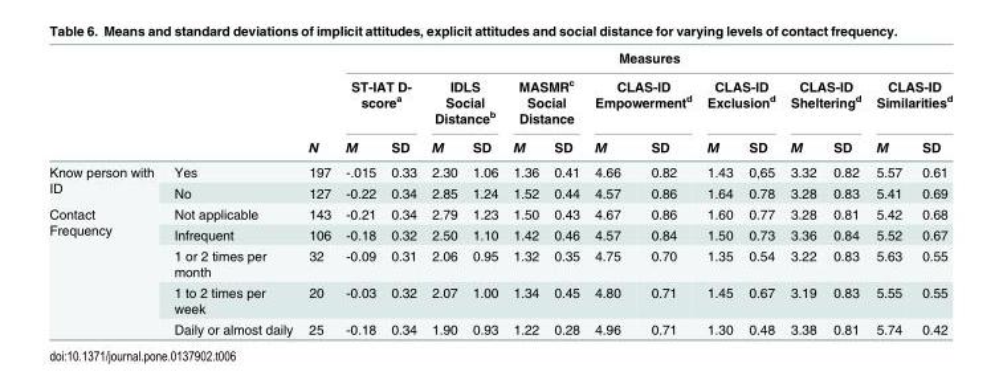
<table><thead><tr><td rowspan="3"></td><td rowspan="3"></td><td rowspan="3">N</td><td colspan="14">Measures</td></tr><tr><td colspan="2">ST-IAT D- score<sup>a</sup></td><td colspan="2">IDLS Social Distance<sup>b</sup></td><td colspan="2">MASMR<sup>c</sup> Social Distance</td><td colspan="2">CLAS-ID Empowerment<sup>d</sup></td><td colspan="2">CLAS-ID Exclusion<sup>d</sup></td><td colspan="2">CLAS-ID Sheltering<sup>d</sup></td><td colspan="2">CLAS-ID Similarities<sup>d</sup></td></tr><tr><td>M</td><td>SD</td><td>M</td><td>SD</td><td>M</td><td>SD</td><td>M</td><td>SD</td><td>M</td><td>SD</td><td>M</td><td>SD</td><td>M</td><td>SD</td></tr></thead><tbody><tr><td rowspan="2">Know person with ID</td><td>Yes</td><td>197</td><td>-.015</td><td>0.33</td><td>2.30</td><td>1.06</td><td>1.36</td><td>0.41</td><td>4.66</td><td>0.82</td><td>1.43</td><td>0,65</td><td>3.32</td><td>0.82</td><td>5.57</td><td>0.61</td></tr><tr><td>No</td><td>127</td><td>-0.22</td><td>0.34</td><td>2.85</td><td>1.24</td><td>1.52</td><td>0.44</td><td>4.57</td><td>0.86</td><td>1.64</td><td>0.78</td><td>3.28</td><td>0.83</td><td>5.41</td><td>0.69</td></tr><tr><td rowspan="5">Contact Frequency</td><td>Not applicable</td><td>143</td><td>-0.21</td><td>0.34</td><td>2.79</td><td>1.23</td><td>1.50</td><td>0.43</td><td>4.67</td><td>0.86</td><td>1.60</td><td>0.77</td><td>3.28</td><td>0.81</td><td>5.42</td><td>0.68</td></tr><tr><td>Infrequent</td><td>106</td><td>-0.18</td><td>0.32</td><td>2.50</td><td>1.10</td><td>1.42</td><td>0.46</td><td>4.57</td><td>0.84</td><td>1.50</td><td>0.73</td><td>3.36</td><td>0.84</td><td>5.52</td><td>0.67</td></tr><tr><td>1 or 2 times per month</td><td>32</td><td>-0.09</td><td>0.31</td><td>2.06</td><td>0.95</td><td>1.32</td><td>0.35</td><td>4.75</td><td>0.70</td><td>1.35</td><td>0.54</td><td>3.22</td><td>0.83</td><td>5.63</td><td>0.55</td></tr><tr><td>1 to 2 times per week</td><td>20</td><td>-0.03</td><td>0.32</td><td>2.07</td><td>1.00</td><td>1.34</td><td>0.45</td><td>4.80</td><td>0.71</td><td>1.45</td><td>0.67</td><td>3.19</td><td>0.83</td><td>5.55</td><td>0.55</td></tr><tr><td>Daily or almost daily</td><td>25</td><td>-0.18</td><td>0.34</td><td>1.90</td><td>0.93</td><td>1.22</td><td>0.28</td><td>4.96</td><td>0.71</td><td>1.30</td><td>0.48</td><td>3.38</td><td>0.81</td><td>5.74</td><td>0.42</td></tr></tbody></table>